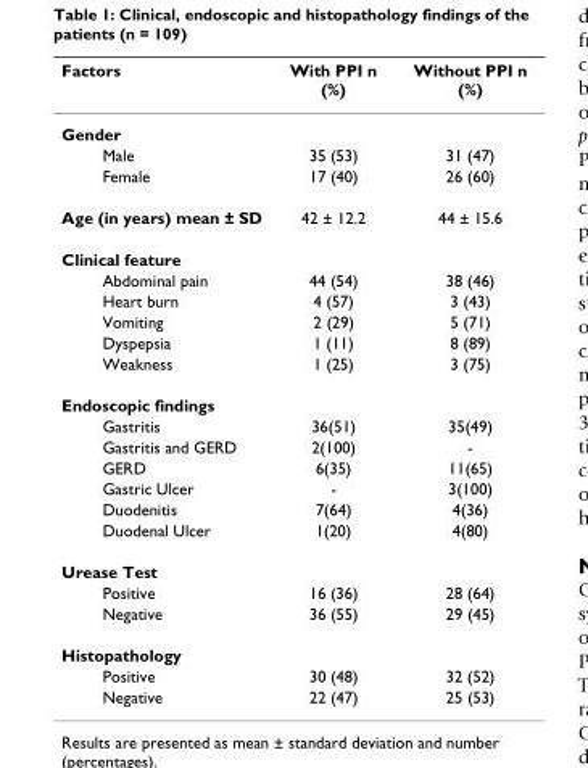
<table><thead><tr><td>Factors</td><td>With PPI n (%)</td><td>Without PPI n (%)</td></tr></thead><tbody><tr><td colspan="3">Gender</td></tr><tr><td>Male</td><td>35 (53)</td><td>31 (47)</td></tr><tr><td>Female</td><td>17 (40)</td><td>26 (60)</td></tr><tr><td>Age (in years) mean ± SD</td><td>42 ± 12.2</td><td>44 ± 15.6</td></tr><tr><td colspan="3">Clinical feature</td></tr><tr><td>Abdominal pain</td><td>44 (54)</td><td>38 (46)</td></tr><tr><td>Heart burn</td><td>4 (57)</td><td>3 (43)</td></tr><tr><td>Vomiting</td><td>2 (29)</td><td>5 (71)</td></tr><tr><td>Dyspepsia</td><td>1 (11)</td><td>8 (89)</td></tr><tr><td>Weakness</td><td>1 (25)</td><td>3 (75)</td></tr><tr><td colspan="3">Endoscopic findings</td></tr><tr><td>Gastritis</td><td>36(51)</td><td>35(49)</td></tr><tr><td>Gastritis and GERD</td><td>2(100)</td><td>-</td></tr><tr><td>GERD</td><td>6(35)</td><td>11(65)</td></tr><tr><td>Gastric Ulcer</td><td>-</td><td>3(100)</td></tr><tr><td>Duodenitis</td><td>7(64)</td><td>4(36)</td></tr><tr><td>Duodenal Ulcer</td><td>1(20)</td><td>4(80)</td></tr><tr><td colspan="3">Urease Test</td></tr><tr><td>Positive</td><td>16 (36)</td><td>28 (64)</td></tr><tr><td>Negative</td><td>36 (55)</td><td>29 (45)</td></tr><tr><td colspan="3">Histopathology</td></tr><tr><td>Positive</td><td>30 (48)</td><td>32 (52)</td></tr><tr><td>Negative</td><td>22 (47)</td><td>25 (53)</td></tr></tbody></table>